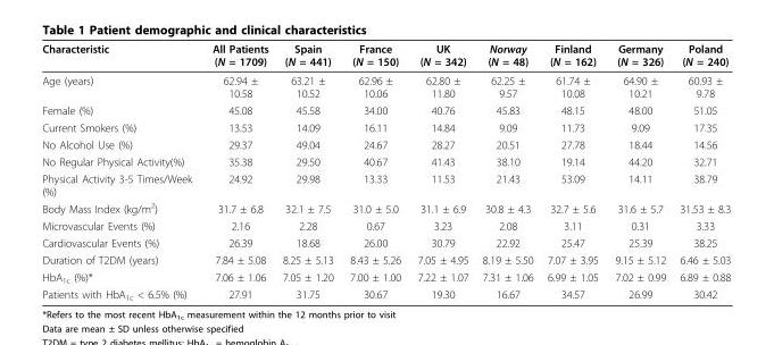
<table><thead><tr><td>Characteristic</td><td>All Patients (N = 1709)</td><td>Spain (N = 441)</td><td>France (N = 150)</td><td>UK (N = 342)</td><td>Norway (N = 48)</td><td>Finland (N = 162)</td><td>Germany (N = 326)</td><td>Poland (N = 240)</td></tr></thead><tbody><tr><td>Age (years)</td><td>62.94 ± 10.58</td><td>63.21 ± 10.52</td><td>62.96 ± 10.06</td><td>62.80 ± 11.80</td><td>62.25 ± 9.57</td><td>61.74 ± 10.08</td><td>64.90 ± 10.21</td><td>60.93 ± 9.78</td></tr><tr><td>Female (%)</td><td>45.08</td><td>45.58</td><td>34.00</td><td>40.76</td><td>45.83</td><td>48.15</td><td>48.00</td><td>51.05</td></tr><tr><td>Current Smokers (%)</td><td>13.53</td><td>14.09</td><td>16.11</td><td>14.84</td><td>9.09</td><td>11.73</td><td>9.09</td><td>17.35</td></tr><tr><td>No Alcohol Use (%)</td><td>29.37</td><td>49.04</td><td>24.67</td><td>28.27</td><td>20.51</td><td>27.78</td><td>18.44</td><td>14.56</td></tr><tr><td>No Regular Physical Activity(%)</td><td>35.38</td><td>29.50</td><td>40.67</td><td>41.43</td><td>38.10</td><td>19.14</td><td>44.20</td><td>32.71</td></tr><tr><td>Physical Activity 3-5 Times/Week (%)</td><td>24.92</td><td>29.98</td><td>13.33</td><td>11.53</td><td>21.43</td><td>53.09</td><td>14.11</td><td>38.79</td></tr><tr><td>Body Mass Index (kg/m<sup>2</sup>)</td><td>31.7 ± 6.8</td><td>32.1 ± 7.5</td><td>31.0 ± 5.0</td><td>31.1 ± 6.9</td><td>30.8 ± 4.3</td><td>32.7 ± 5.6</td><td>31.6 ± 5.7</td><td>31.53 ± 8.3</td></tr><tr><td>Microvascular Events (%)</td><td>2.16</td><td>2.28</td><td>0.67</td><td>3.23</td><td>2.08</td><td>3.11</td><td>0.31</td><td>3.33</td></tr><tr><td>Cardiovascular Events (%)</td><td>26.39</td><td>18.68</td><td>26.00</td><td>30.79</td><td>22.92</td><td>25.47</td><td>25.39</td><td>38.25</td></tr><tr><td>Duration of T2DM (years)</td><td>7.84 ± 5.08</td><td>8.25 ± 5.13</td><td>8.43 ± 5.26</td><td>7.05 ± 4.95</td><td>8.19 ± 5.50</td><td>7.07 ± 3.95</td><td>9.15 ± 5.12</td><td>6.46 ± 5.03</td></tr><tr><td>HbA<sub>1c</sub> (%)*</td><td>7.06 ± 1.06</td><td>7.05 ± 1.20</td><td>7.00 ± 1.00</td><td>7.22 ± 1.07</td><td>7.31 ± 1.06</td><td>6.99 ± 1.05</td><td>7.02 ± 0.99</td><td>6.89 ± 0.88</td></tr><tr><td>Patients with HbA<sub>1c</sub> &lt; 6.5% (%)</td><td>27.91</td><td>31.75</td><td>30.67</td><td>19.30</td><td>16.67</td><td>34.57</td><td>26.99</td><td>30.42</td></tr></tbody></table>